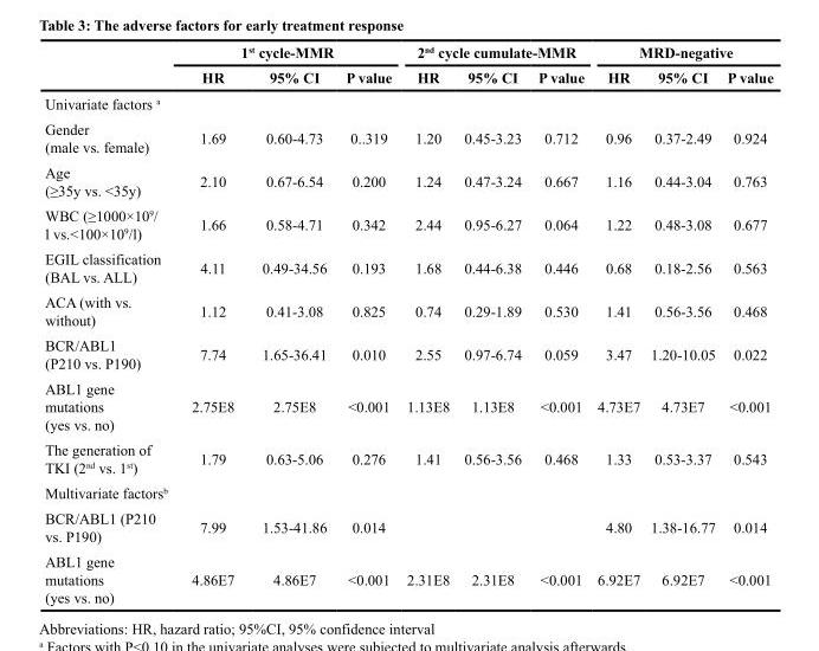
<table><thead><tr><td rowspan="2"></td><td colspan="3">1<sup>st</sup> cycle-MMR</td><td colspan="3">2<sup>nd</sup> cycle cumulate-MMR</td><td colspan="3">MRD-negative</td></tr><tr><td>HR</td><td>95% CI</td><td>P value</td><td>HR</td><td>95% CI</td><td>P value</td><td>HR</td><td>95% CI</td><td>P value</td></tr></thead><tbody><tr><td colspan="10">Univariate factors <sup>a</sup></td></tr><tr><td>Gender (male vs. female)</td><td>1.69</td><td>0.60-4.73</td><td>0..319</td><td>1.20</td><td>0.45-3.23</td><td>0.712</td><td>0.96</td><td>0.37-2.49</td><td>0.924</td></tr><tr><td>Age (≥35y vs. &lt;35y)</td><td>2.10</td><td>0.67-6.54</td><td>0.200</td><td>1.24</td><td>0.47-3.24</td><td>0.667</td><td>1.16</td><td>0.44-3.04</td><td>0.763</td></tr><tr><td>WBC (≥1000×10<sup>9</sup>/ l vs.&lt;100×10<sup>9</sup>/l)</td><td>1.66</td><td>0.58-4.71</td><td>0.342</td><td>2.44</td><td>0.95-6.27</td><td>0.064</td><td>1.22</td><td>0.48-3.08</td><td>0.677</td></tr><tr><td>EGIL classification (BAL vs. ALL)</td><td>4.11</td><td>0.49-34.56</td><td>0.193</td><td>1.68</td><td>0.44-6.38</td><td>0.446</td><td>0.68</td><td>0.18-2.56</td><td>0.563</td></tr><tr><td>ACA (with vs. without)</td><td>1.12</td><td>0.41-3.08</td><td>0.825</td><td>0.74</td><td>0.29-1.89</td><td>0.530</td><td>1.41</td><td>0.56-3.56</td><td>0.468</td></tr><tr><td>BCR/ABL1 (P210 vs. P190)</td><td>7.74</td><td>1.65-36.41</td><td>0.010</td><td>2.55</td><td>0.97-6.74</td><td>0.059</td><td>3.47</td><td>1.20-10.05</td><td>0.022</td></tr><tr><td>ABL1 gene mutations (yes vs. no)</td><td>2.75E8</td><td>2.75E8</td><td>&lt;0.001</td><td>1.13E8</td><td>1.13E8</td><td>&lt;0.001</td><td>4.73E7</td><td>4.73E7</td><td>&lt;0.001</td></tr><tr><td>The generation of TKI (2<sup>nd</sup> vs. 1<sup>st</sup>)</td><td>1.79</td><td>0.63-5.06</td><td>0.276</td><td>1.41</td><td>0.56-3.56</td><td>0.468</td><td>1.33</td><td>0.53-3.37</td><td>0.543</td></tr><tr><td colspan="10">Multivariate factors<sup>b</sup></td></tr><tr><td>BCR/ABL1 (P210 vs. P190)</td><td>7.99</td><td>1.53-41.86</td><td>0.014</td><td></td><td></td><td></td><td>4.80</td><td>1.38-16.77</td><td>0.014</td></tr><tr><td>ABL1 gene mutations (yes vs. no)</td><td>4.86E7</td><td>4.86E7</td><td>&lt;0.001</td><td>2.31E8</td><td>2.31E8</td><td>&lt;0.001</td><td>6.92E7</td><td>6.92E7</td><td>&lt;0.001</td></tr></tbody></table>